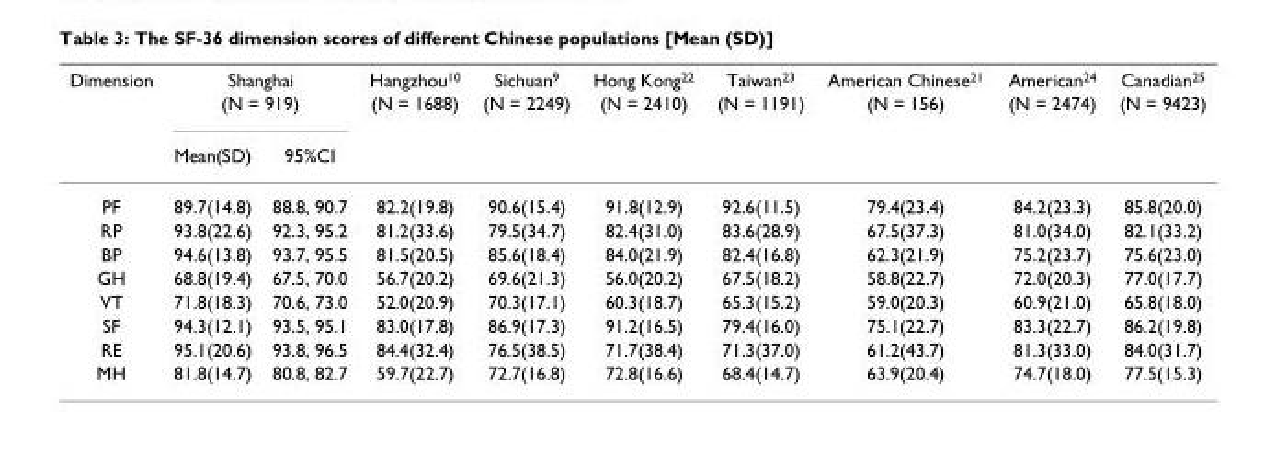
<table><thead><tr><td rowspan="3">Dimension</td><td rowspan="2" colspan="2">Shanghai (N = 919)</td><td rowspan="3">Hangzhou<sup>10</sup> (N = 1688)</td><td rowspan="3">Sichuan<sup>9</sup> (N = 2249)</td><td rowspan="3">Hong Kong<sup>22</sup> (N = 2410)</td><td rowspan="3">Taiwan<sup>23</sup> (N = 1191)</td><td rowspan="3">American Chinese<sup>21</sup> (N = 156)</td><td rowspan="3">American<sup>24</sup> (N = 2474)</td><td rowspan="3">Canadian<sup>25</sup> (N = 9423)</td></tr><tr></tr><tr><td>Mean(SD)</td><td>95%CI</td></tr></thead><tbody><tr><td>PF</td><td>89.7(14.8)</td><td>88.8, 90.7</td><td>82.2(19.8)</td><td>90.6(15.4)</td><td>91.8(12.9)</td><td>92.6(11.5)</td><td>79.4(23.4)</td><td>84.2(23.3)</td><td>85.8(20.0)</td></tr><tr><td>RP</td><td>93.8(22.6)</td><td>92.3, 95.2</td><td>81.2(33.6)</td><td>79.5(34.7)</td><td>82.4(31.0)</td><td>83.6(28.9)</td><td>67.5(37.3)</td><td>81.0(34.0)</td><td>82.1(33.2)</td></tr><tr><td>BP</td><td>94.6(13.8)</td><td>93.7, 95.5</td><td>81.5(20.5)</td><td>85.6(18.4)</td><td>84.0(21.9)</td><td>82.4(16.8)</td><td>62.3(21.9)</td><td>75.2(23.7)</td><td>75.6(23.0)</td></tr><tr><td>GH</td><td>68.8(19.4)</td><td>67.5, 70.0</td><td>56.7(20.2)</td><td>69.6(21.3)</td><td>56.0(20.2)</td><td>67.5(18.2)</td><td>58.8(22.7)</td><td>72.0(20.3)</td><td>77.0(17.7)</td></tr><tr><td>VT</td><td>71.8(18.3)</td><td>70.6, 73.0</td><td>52.0(20.9)</td><td>70.3(17.1)</td><td>60.3(18.7)</td><td>65.3(15.2)</td><td>59.0(20.3)</td><td>60.9(21.0)</td><td>65.8(18.0)</td></tr><tr><td>SF</td><td>94.3(12.1)</td><td>93.5, 95.1</td><td>83.0(17.8)</td><td>86.9(17.3)</td><td>91.2(16.5)</td><td>79.4(16.0)</td><td>75.1(22.7)</td><td>83.3(22.7)</td><td>86.2(19.8)</td></tr><tr><td>RE</td><td>95.1(20.6)</td><td>93.8, 96.5</td><td>84.4(32.4)</td><td>76.5(38.5)</td><td>71.7(38.4)</td><td>71.3(37.0)</td><td>61.2(43.7)</td><td>81.3(33.0)</td><td>84.0(31.7)</td></tr><tr><td>MH</td><td>81.8(14.7)</td><td>80.8, 82.7</td><td>59.7(22.7)</td><td>72.7(16.8)</td><td>72.8(16.6)</td><td>68.4(14.7)</td><td>63.9(20.4)</td><td>74.7(18.0)</td><td>77.5(15.3)</td></tr></tbody></table>